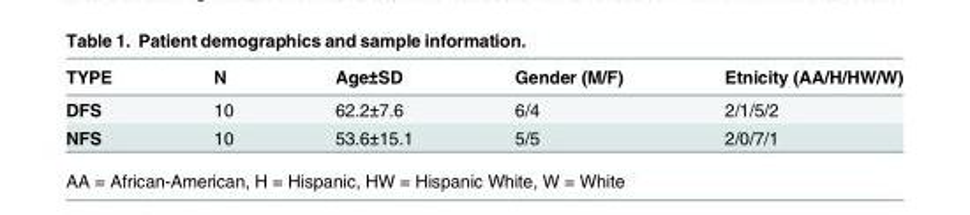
<table><thead><tr><td>TYPE</td><td>N</td><td>Age±SD</td><td>Gender (M/F)</td><td>Etnicity (AA/H/HW/W)</td></tr></thead><tbody><tr><td>DFS</td><td>10</td><td>62.2±7.6</td><td>6/4</td><td>2/1/5/2</td></tr><tr><td>NFS</td><td>10</td><td>53.6±15.1</td><td>5/5</td><td>2/0/7/1</td></tr></tbody></table>